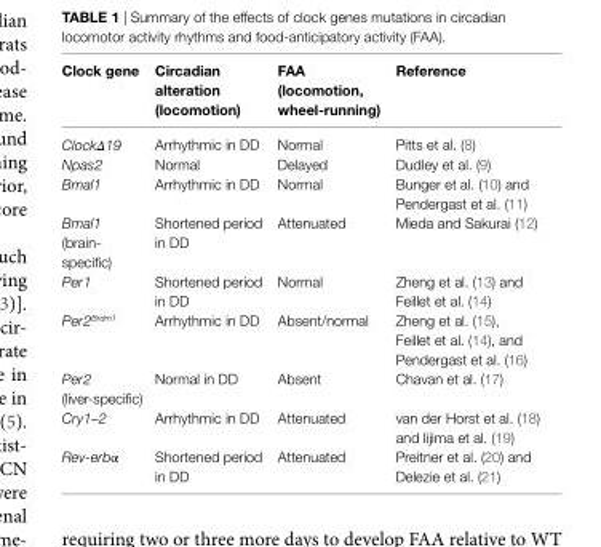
<table><thead><tr><td>Clock gene</td><td>Circadian alteration (locomotion)</td><td>FAA (locomotion, wheel-running)</td><td>Reference</td></tr></thead><tbody><tr><td>ClockΔ19</td><td>Arrhythmic in DD</td><td>Normal</td><td>Pitts et al. (8)</td></tr><tr><td>Npas2</td><td>Normal</td><td>Delayed</td><td>Dudley et al. (9)</td></tr><tr><td>Bmal1</td><td>Arrhythmic in DD</td><td>Normal</td><td>Bunger et al. (10) and Pendergast et al. (11)</td></tr><tr><td>Bmal1 (brain- specific)</td><td>Shortened period in DD</td><td>Attenuated</td><td>Mieda and Sakurai (12)</td></tr><tr><td>Per1</td><td>Shortened period in DD</td><td>Normal</td><td>Zheng et al. (13) and Feillet et al. (14)</td></tr><tr><td>Per2<sup>Brdm1</sup></td><td>Arrhythmic in DD</td><td>Absent/normal</td><td>Zheng et al. (15), Feillet et al. (14), and Pendergast et al. (16)</td></tr><tr><td>Per2 (liver-specific)</td><td>Normal in DD</td><td>Absent</td><td>Chavan et al. (17)</td></tr><tr><td>Cry1–2</td><td>Arrhythmic in DD</td><td>Attenuated</td><td>van der Horst et al. (18) and Iijima et al. (19)</td></tr><tr><td>Rev-erbα</td><td>Shortened period in DD</td><td>Attenuated</td><td>Preitner et al. (20) and Delezie et al. (21)</td></tr></tbody></table>